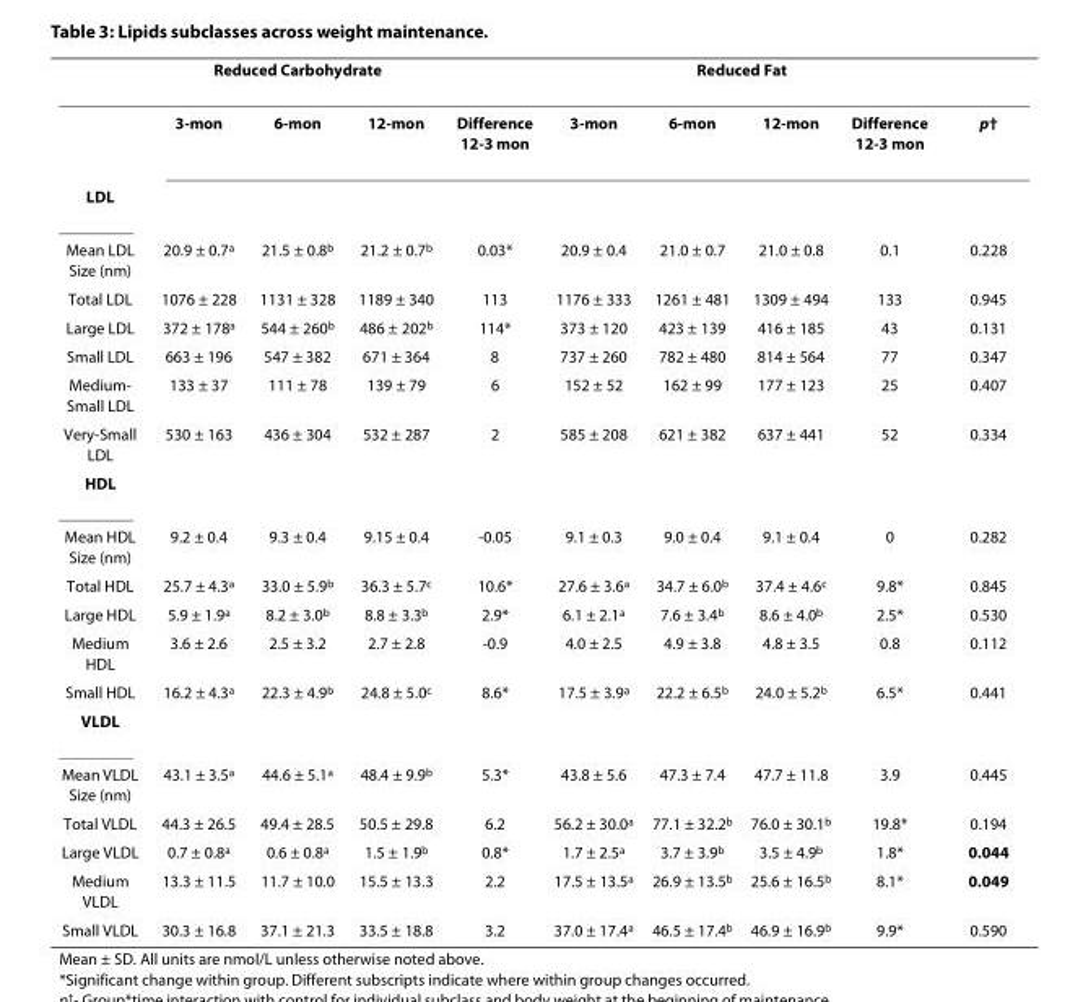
<table><thead><tr><td colspan="5">Reduced Carbohydrate</td><td colspan="4">Reduced Fat</td><td rowspan="2">p<sup>†</sup></td></tr><tr><td></td><td>3-mon</td><td>6-mon</td><td>12-mon</td><td>Difference 12-3 mon</td><td>3-mon</td><td>6-mon</td><td>12-mon</td><td>Difference 12-3 mon</td></tr></thead><tbody><tr><td colspan="10">LDL</td></tr><tr><td>Mean LDL Size (nm)</td><td>20.9 ± 0.7<sup>a</sup></td><td>21.5 ± 0.8<sup>b</sup></td><td>21.2 ± 0.7<sup>b</sup></td><td>0.03*</td><td>20.9 ± 0.4</td><td>21.0 ± 0.7</td><td>21.0 ± 0.8</td><td>0.1</td><td>0.228</td></tr><tr><td>Total LDL</td><td>1076 ± 228</td><td>1131 ± 328</td><td>1189 ± 340</td><td>113</td><td>1176 ± 333</td><td>1261 ± 481</td><td>1309 ± 494</td><td>133</td><td>0.945</td></tr><tr><td>Large LDL</td><td>372 ± 178<sup>a</sup></td><td>544 ± 260<sup>b</sup></td><td>486 ± 202<sup>b</sup></td><td>114*</td><td>373 ± 120</td><td>423 ± 139</td><td>416 ± 185</td><td>43</td><td>0.131</td></tr><tr><td>Small LDL</td><td>663 ± 196</td><td>547 ± 382</td><td>671 ± 364</td><td>8</td><td>737 ± 260</td><td>782 ± 480</td><td>814 ± 564</td><td>77</td><td>0.347</td></tr><tr><td>Medium- Small LDL</td><td>133 ± 37</td><td>111 ± 78</td><td>139 ± 79</td><td>6</td><td>152 ± 52</td><td>162 ± 99</td><td>177 ± 123</td><td>25</td><td>0.407</td></tr><tr><td>Very-Small LDL</td><td>530 ± 163</td><td>436 ± 304</td><td>532 ± 287</td><td>2</td><td>585 ± 208</td><td>621 ± 382</td><td>637 ± 441</td><td>52</td><td>0.334</td></tr><tr><td colspan="10">HDL</td></tr><tr><td>Mean HDL Size (nm)</td><td>9.2 ± 0.4</td><td>9.3 ± 0.4</td><td>9.15 ± 0.4</td><td>-0.05</td><td>9.1 ± 0.3</td><td>9.0 ± 0.4</td><td>9.1 ± 0.4</td><td>0</td><td>0.282</td></tr><tr><td>Total HDL</td><td>25.7 ± 4.3<sup>a</sup></td><td>33.0 ± 5.9<sup>b</sup></td><td>36.3 ± 5.7<sup>c</sup></td><td>10.6*</td><td>27.6 ± 3.6<sup>a</sup></td><td>34.7 ± 6.0<sup>b</sup></td><td>37.4 ± 4.6<sup>c</sup></td><td>9.8*</td><td>0.845</td></tr><tr><td>Large HDL</td><td>5.9 ± 1.9<sup>a</sup></td><td>8.2 ± 3.0<sup>b</sup></td><td>8.8 ± 3.3<sup>b</sup></td><td>2.9*</td><td>6.1 ± 2.1<sup>a</sup></td><td>7.6 ± 3.4<sup>b</sup></td><td>8.6 ± 4.0<sup>b</sup></td><td>2.5*</td><td>0.530</td></tr><tr><td>Medium HDL</td><td>3.6 ± 2.6</td><td>2.5 ± 3.2</td><td>2.7 ± 2.8</td><td>-0.9</td><td>4.0 ± 2.5</td><td>4.9 ± 3.8</td><td>4.8 ± 3.5</td><td>0.8</td><td>0.112</td></tr><tr><td>Small HDL</td><td>16.2 ± 4.3<sup>a</sup></td><td>22.3 ± 4.9<sup>b</sup></td><td>24.8 ± 5.0<sup>c</sup></td><td>8.6*</td><td>17.5 ± 3.9<sup>a</sup></td><td>22.2 ± 6.5<sup>b</sup></td><td>24.0 ± 5.2<sup>b</sup></td><td>6.5*</td><td>0.441</td></tr><tr><td colspan="10">VLDL</td></tr><tr><td>Mean VLDL Size (nm)</td><td>43.1 ± 3.5<sup>a</sup></td><td>44.6 ± 5.1<sup>a</sup></td><td>48.4 ± 9.9<sup>b</sup></td><td>5.3*</td><td>43.8 ± 5.6</td><td>47.3 ± 7.4</td><td>47.7 ± 11.8</td><td>3.9</td><td>0.445</td></tr><tr><td>Total VLDL</td><td>44.3 ± 26.5</td><td>49.4 ± 28.5</td><td>50.5 ± 29.8</td><td>6.2</td><td>56.2 ± 30.0<sup>a</sup></td><td>77.1 ± 32.2<sup>b</sup></td><td>76.0 ± 30.1<sup>b</sup></td><td>19.8*</td><td>0.194</td></tr><tr><td>Large VLDL</td><td>0.7 ± 0.8<sup>a</sup></td><td>0.6 ± 0.8<sup>a</sup></td><td>1.5 ± 1.9<sup>b</sup></td><td>0.8*</td><td>1.7 ± 2.5<sup>a</sup></td><td>3.7 ± 3.9<sup>b</sup></td><td>3.5 ± 4.9<sup>b</sup></td><td>1.8*</td><td>0.044</td></tr><tr><td>Medium VLDL</td><td>13.3 ± 11.5</td><td>11.7 ± 10.0</td><td>15.5 ± 13.3</td><td>2.2</td><td>17.5 ± 13.5<sup>a</sup></td><td>26.9 ± 13.5<sup>b</sup></td><td>25.6 ± 16.5<sup>b</sup></td><td>8.1*</td><td>0.049</td></tr><tr><td>Small VLDL</td><td>30.3 ± 16.8</td><td>37.1 ± 21.3</td><td>33.5 ± 18.8</td><td>3.2</td><td>37.0 ± 17.4<sup>a</sup></td><td>46.5 ± 17.4<sup>b</sup></td><td>46.9 ± 16.9<sup>b</sup></td><td>9.9*</td><td>0.590</td></tr></tbody></table>